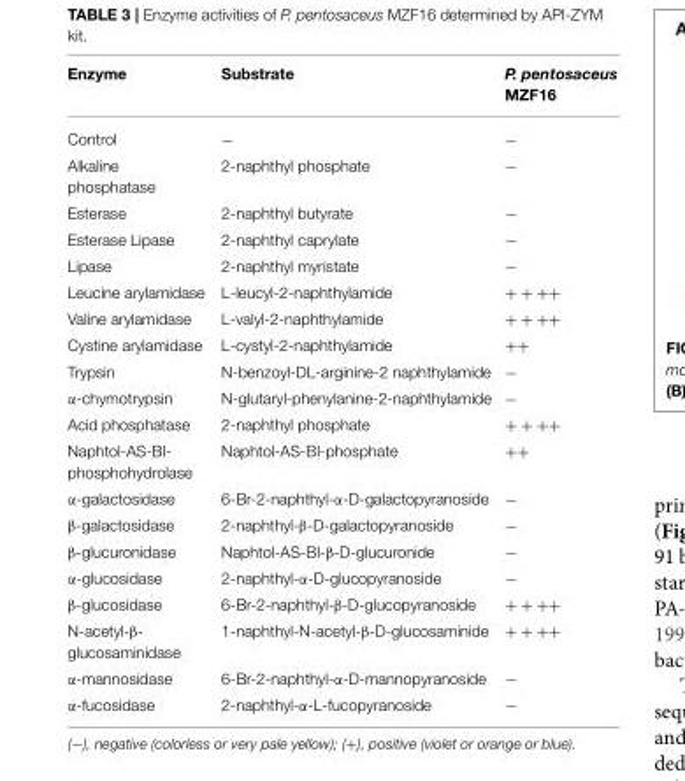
<table><thead><tr><td>Enzyme</td><td>Substrate</td><td>P. pentosaceus MZF16</td></tr></thead><tbody><tr><td>Control</td><td>−</td><td>−</td></tr><tr><td>Alkaline phosphatase</td><td>2-naphthyl phosphate</td><td>−</td></tr><tr><td>Esterase</td><td>2-naphthyl butyrate</td><td>−</td></tr><tr><td>Esterase Lipase</td><td>2-naphthyl caprylate</td><td>−</td></tr><tr><td>Lipase</td><td>2-naphthyl myristate</td><td>−</td></tr><tr><td>Leucine arylamidase</td><td>L-leucyl-2-naphthylamide</td><td>+ + ++</td></tr><tr><td>Valine arylamidase</td><td>L-valyl-2-naphthylamide</td><td>+ + ++</td></tr><tr><td>Cystine arylamidase</td><td>L-cystyl-2-naphthylamide</td><td>++</td></tr><tr><td>Trypsin</td><td>N-benzoyl-DL-arginine-2 naphthylamide</td><td>−</td></tr><tr><td>α-chymotrypsin</td><td>N-glutaryl-phenylanine-2-naphthylamide</td><td>−</td></tr><tr><td>Acid phosphatase</td><td>2-naphthyl phosphate</td><td>+ + ++</td></tr><tr><td>Naphtol-AS-BI- phosphohydrolase</td><td>Naphtol-AS-BI-phosphate</td><td>++</td></tr><tr><td>α-galactosidase</td><td>6-Br-2-naphthyl-α-D-galactopyranoside</td><td>−</td></tr><tr><td>β-galactosidase</td><td>2-naphthyl-β-D-galactopyranoside</td><td>−</td></tr><tr><td>β-glucuronidase</td><td>Naphtol-AS-BI-β-D-glucuronide</td><td>−</td></tr><tr><td>α-glucosidase</td><td>2-naphthyl-α-D-glucopyranoside</td><td>−</td></tr><tr><td>β-glucosidase</td><td>6-Br-2-naphthyl-β-D-glucopyranoside</td><td>+ + ++</td></tr><tr><td>N-acetyl-β- glucosaminidase</td><td>1-naphthyl-N-acetyl-β-D-glucosaminide</td><td>+ + ++</td></tr><tr><td>α-mannosidase</td><td>6-Br-2-naphthyl-α-D-mannopyranoside</td><td>−</td></tr><tr><td>α-fucosidase</td><td>2-naphthyl-α-L-fucopyranoside</td><td>−</td></tr></tbody></table>